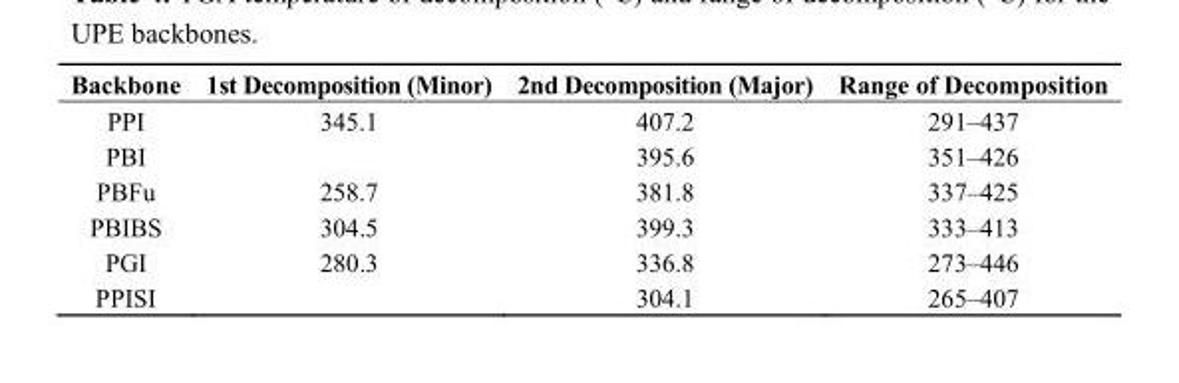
<table><thead><tr><td>Backbone</td><td>1st Decomposition (Minor)</td><td>2nd Decomposition (Major)</td><td>Range of Decomposition</td></tr></thead><tbody><tr><td>PPI</td><td>345.1</td><td>407.2</td><td>291–437</td></tr><tr><td>PBI</td><td></td><td>395.6</td><td>351–426</td></tr><tr><td>PBFu</td><td>258.7</td><td>381.8</td><td>337–425</td></tr><tr><td>PBIBS</td><td>304.5</td><td>399.3</td><td>333–413</td></tr><tr><td>PGI</td><td>280.3</td><td>336.8</td><td>273–446</td></tr><tr><td>PPISI</td><td></td><td>304.1</td><td>265–407</td></tr></tbody></table>